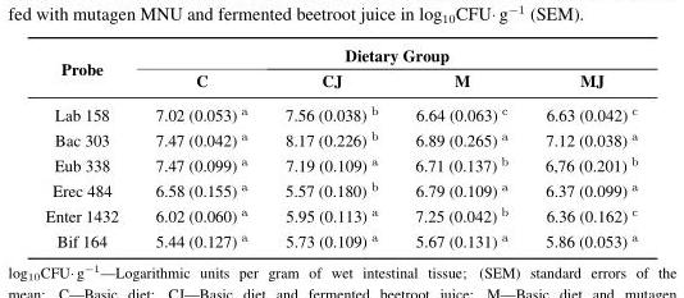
<table><thead><tr><td rowspan="2">Probe</td><td colspan="4">Dietary Group</td></tr><tr><td>C</td><td>CJ</td><td>M</td><td>MJ</td></tr></thead><tbody><tr><td>Lab 158</td><td>7.02 (0.053) <sup>a</sup></td><td>7.56 (0.038) <sup>b</sup></td><td>6.64 (0.063) <sup>c</sup></td><td>6.63 (0.042) <sup>c</sup></td></tr><tr><td>Bac 303</td><td>7.47 (0.042) <sup>a</sup></td><td>8.17 (0.226) <sup>b</sup></td><td>6.89 (0.265) <sup>a</sup></td><td>7.12 (0.038) <sup>a</sup></td></tr><tr><td>Eub 338</td><td>7.47 (0.099) <sup>a</sup></td><td>7.19 (0.109) <sup>a</sup></td><td>6.71 (0.137) <sup>b</sup></td><td>6,76 (0.201) <sup>b</sup></td></tr><tr><td>Erec 484</td><td>6.58 (0.155) <sup>a</sup></td><td>5.57 (0.180) <sup>b</sup></td><td>6.79 (0.109) <sup>a</sup></td><td>6.37 (0.099) <sup>a</sup></td></tr><tr><td>Enter 1432</td><td>6.02 (0.060) <sup>a</sup></td><td>5.95 (0.113) <sup>a</sup></td><td>7.25 (0.042) <sup>b</sup></td><td>6.36 (0.162) <sup>c</sup></td></tr><tr><td>Bif 164</td><td>5.44 (0.127) <sup>a</sup></td><td>5.73 (0.109) <sup>a</sup></td><td>5.67 (0.131) <sup>a</sup></td><td>5.86 (0.053) <sup>a</sup></td></tr></tbody></table>